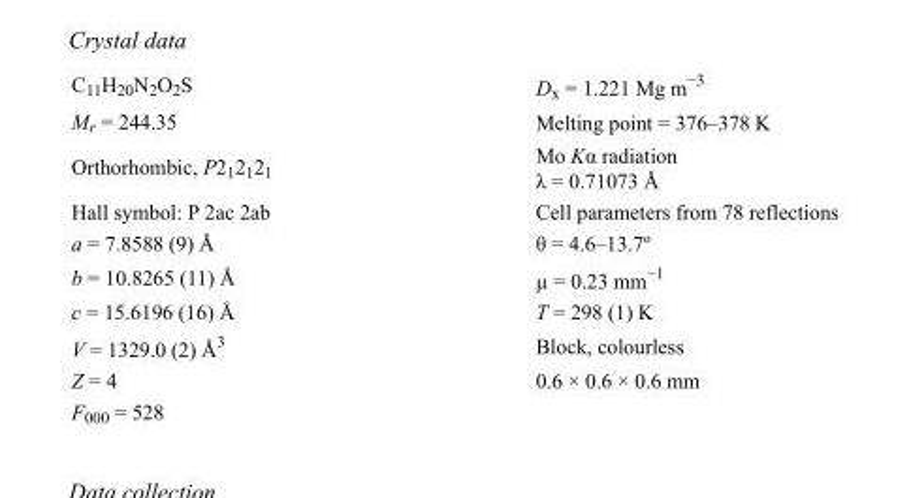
<table><tbody><tr><td>C<sub>11</sub>H<sub>20</sub>N<sub>2</sub>O<sub>2</sub>S</td><td>D<sub>x</sub> = 1.221 Mg m<sup>−3</sup></td></tr><tr><td>M<sub>r</sub> = 244.35</td><td>Melting point = 376–378 K</td></tr><tr><td>Orthorhombic, P2<sub>1</sub>2<sub>1</sub>2<sub>1</sub></td><td>Mo Kα radiation λ = 0.71073 Å</td></tr><tr><td>Hall symbol: P 2ac 2ab</td><td>Cell parameters from 78 reflections</td></tr><tr><td>a = 7.8588 (9) Å</td><td>θ = 4.6–13.7º</td></tr><tr><td>b = 10.8265 (11) Å</td><td>µ = 0.23 mm<sup>−1</sup></td></tr><tr><td>c = 15.6196 (16) Å</td><td>T = 298 (1) K</td></tr><tr><td>V = 1329.0 (2) Å<sup>3</sup></td><td>Block, colourless</td></tr><tr><td>Z = 4</td><td>0.6 × 0.6 × 0.6 mm</td></tr><tr><td>F000 = 528</td><td></td></tr></tbody></table>